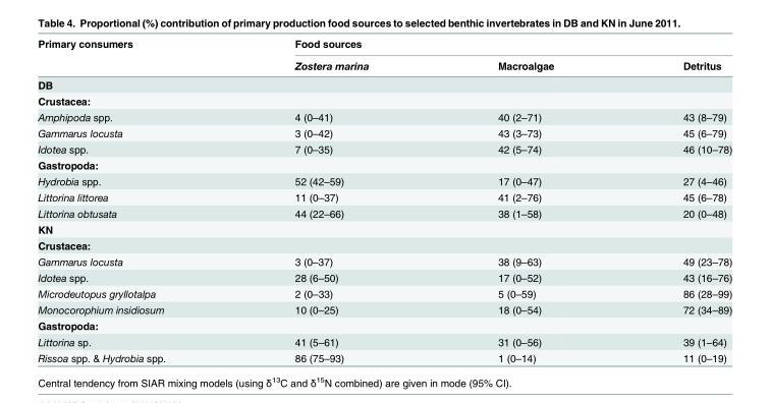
<table><thead><tr><td rowspan="2">Primary consumers</td><td colspan="3">Food sources</td></tr><tr><td>Zostera marina</td><td>Macroalgae</td><td>Detritus</td></tr></thead><tbody><tr><td colspan="4">DB</td></tr><tr><td colspan="4">Crustacea:</td></tr><tr><td>Amphipoda spp.</td><td>4 (0–41)</td><td>40 (2–71)</td><td>43 (8–79)</td></tr><tr><td>Gammarus locusta</td><td>3 (0–42)</td><td>43 (3–73)</td><td>45 (6–79)</td></tr><tr><td>Idotea spp.</td><td>7 (0–35)</td><td>42 (5–74)</td><td>46 (10–78)</td></tr><tr><td colspan="4">Gastropoda:</td></tr><tr><td>Hydrobia spp.</td><td>52 (42–59)</td><td>17 (0–47)</td><td>27 (4–46)</td></tr><tr><td>Littorina littorea</td><td>11 (0–37)</td><td>41 (2–76)</td><td>45 (6–78)</td></tr><tr><td>Littorina obtusata</td><td>44 (22–66)</td><td>38 (1–58)</td><td>20 (0–48)</td></tr><tr><td colspan="4">KN</td></tr><tr><td colspan="4">Crustacea:</td></tr><tr><td>Gammarus locusta</td><td>3 (0–37)</td><td>38 (9–63)</td><td>49 (23–78)</td></tr><tr><td>Idotea spp.</td><td>28 (6–50)</td><td>17 (0–52)</td><td>43 (16–76)</td></tr><tr><td>Microdeutopus gryllotalpa</td><td>2 (0–33)</td><td>5 (0–59)</td><td>86 (28–99)</td></tr><tr><td>Monocorophium insidiosum</td><td>10 (0–25)</td><td>18 (0–54)</td><td>72 (34–89)</td></tr><tr><td colspan="4">Gastropoda:</td></tr><tr><td>Littorina sp.</td><td>41 (5–61)</td><td>31 (0–56)</td><td>39 (1–64)</td></tr><tr><td>Rissoa spp. &amp; Hydrobia spp.</td><td>86 (75–93)</td><td>1 (0–14)</td><td>11 (0–19)</td></tr></tbody></table>